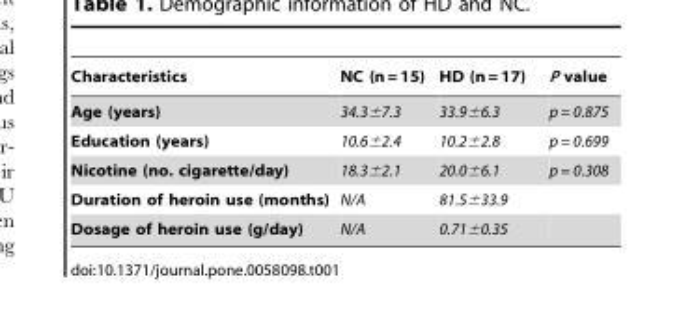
<table><thead><tr><td>Characteristics</td><td>NC (n = 15)</td><td>HD (n = 17)</td><td>P value</td></tr></thead><tbody><tr><td>Age (years)</td><td>34.3±7.3</td><td>33.9±6.3</td><td>p = 0.875</td></tr><tr><td>Education (years)</td><td>10.6±2.4</td><td>10.2±2.8</td><td>p = 0.699</td></tr><tr><td>Nicotine (no. cigarette/day)</td><td>18.3±2.1</td><td>20.0±6.1</td><td>p = 0.308</td></tr><tr><td>Duration of heroin use (months)</td><td>N/A</td><td>81.5±33.9</td><td></td></tr><tr><td>Dosage of heroin use (g/day)</td><td>N/A</td><td>0.71±0.35</td><td></td></tr></tbody></table>